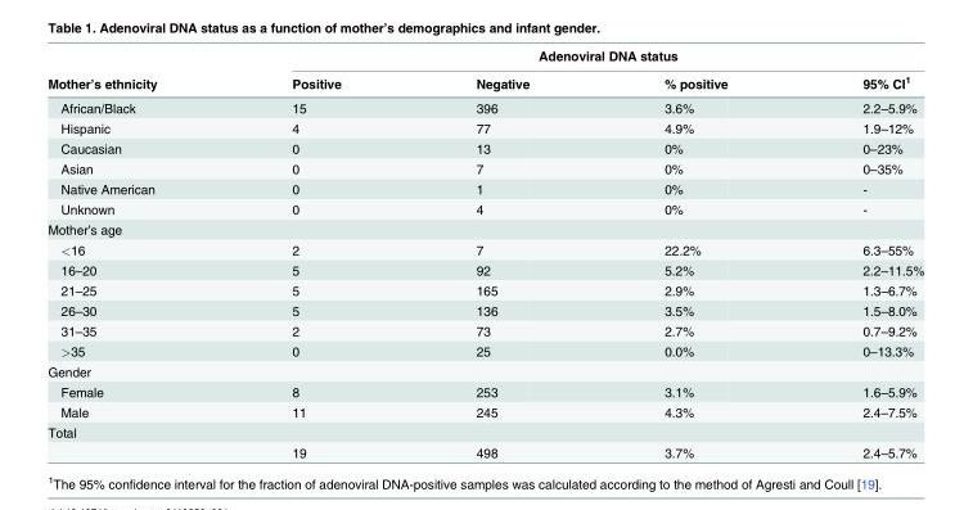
<table><thead><tr><td rowspan="2">Mother’s ethnicity</td><td colspan="4">Adenoviral DNA status</td></tr><tr><td>Positive</td><td>Negative</td><td>% positive</td><td>95% CI<sup>1</sup></td></tr></thead><tbody><tr><td>African/Black</td><td>15</td><td>396</td><td>3.6%</td><td>2.2–5.9%</td></tr><tr><td>Hispanic</td><td>4</td><td>77</td><td>4.9%</td><td>1.9–12%</td></tr><tr><td>Caucasian</td><td>0</td><td>13</td><td>0%</td><td>0–23%</td></tr><tr><td>Asian</td><td>0</td><td>7</td><td>0%</td><td>0–35%</td></tr><tr><td>Native American</td><td>0</td><td>1</td><td>0%</td><td>-</td></tr><tr><td>Unknown</td><td>0</td><td>4</td><td>0%</td><td>-</td></tr><tr><td colspan="5">Mother’s age</td></tr><tr><td>&lt;16</td><td>2</td><td>7</td><td>22.2%</td><td>6.3–55%</td></tr><tr><td>16–20</td><td>5</td><td>92</td><td>5.2%</td><td>2.2–11.5%</td></tr><tr><td>21–25</td><td>5</td><td>165</td><td>2.9%</td><td>1.3–6.7%</td></tr><tr><td>26–30</td><td>5</td><td>136</td><td>3.5%</td><td>1.5–8.0%</td></tr><tr><td>31–35</td><td>2</td><td>73</td><td>2.7%</td><td>0.7–9.2%</td></tr><tr><td>&gt;35</td><td>0</td><td>25</td><td>0.0%</td><td>0–13.3%</td></tr><tr><td colspan="5">Gender</td></tr><tr><td>Female</td><td>8</td><td>253</td><td>3.1%</td><td>1.6–5.9%</td></tr><tr><td>Male</td><td>11</td><td>245</td><td>4.3%</td><td>2.4–7.5%</td></tr><tr><td colspan="5">Total</td></tr><tr><td></td><td>19</td><td>498</td><td>3.7%</td><td>2.4–5.7%</td></tr></tbody></table>